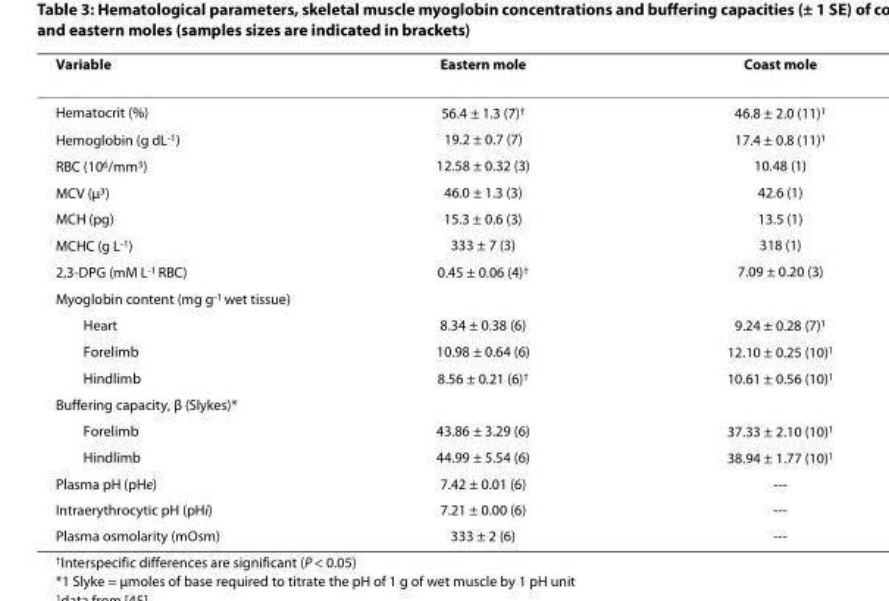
<table><thead><tr><td>Variable</td><td>Eastern mole</td><td>Coast mole</td></tr></thead><tbody><tr><td>Hematocrit (%)</td><td>56.4 ± 1.3 (7)<sup>†</sup></td><td>46.8 ± 2.0 (11)<sup>1</sup></td></tr><tr><td>Hemoglobin (g dL<sup>-1</sup>)</td><td>19.2 ± 0.7 (7)</td><td>17.4 ± 0.8 (11)<sup>1</sup></td></tr><tr><td>RBC (10<sup>6</sup>/mm<sup>3</sup>)</td><td>12.58 ± 0.32 (3)</td><td>10.48 (1)</td></tr><tr><td>MCV (μ<sup>3</sup>)</td><td>46.0 ± 1.3 (3)</td><td>42.6 (1)</td></tr><tr><td>MCH (pg)</td><td>15.3 ± 0.6 (3)</td><td>13.5 (1)</td></tr><tr><td>MCHC (g L<sup>-1</sup>)</td><td>333 ± 7 (3)</td><td>318 (1)</td></tr><tr><td>2,3-DPG (mM L<sup>-1</sup> RBC)</td><td>0.45 ± 0.06 (4)<sup>†</sup></td><td>7.09 ± 0.20 (3)</td></tr><tr><td colspan="3">Myoglobin content (mg g<sup>-1</sup> wet tissue)</td></tr><tr><td>Heart</td><td>8.34 ± 0.38 (6)</td><td>9.24 ± 0.28 (7)<sup>1</sup></td></tr><tr><td>Forelimb</td><td>10.98 ± 0.64 (6)</td><td>12.10 ± 0.25 (10)<sup>1</sup></td></tr><tr><td>Hindlimb</td><td>8.56 ± 0.21 (6)<sup>†</sup></td><td>10.61 ± 0.56 (10)<sup>1</sup></td></tr><tr><td colspan="3">Buffering capacity, β (Slykes)*</td></tr><tr><td>Forelimb</td><td>43.86 ± 3.29 (6)</td><td>37.33 ± 2.10 (10)<sup>1</sup></td></tr><tr><td>Hindlimb</td><td>44.99 ± 5.54 (6)</td><td>38.94 ± 1.77 (10)<sup>1</sup></td></tr><tr><td>Plasma pH (pHe)</td><td>7.42 ± 0.01 (6)</td><td>---</td></tr><tr><td>Intraerythrocytic pH (pHi)</td><td>7.21 ± 0.00 (6)</td><td>---</td></tr><tr><td>Plasma osmolarity (mOsm)</td><td>333 ± 2 (6)</td><td>---</td></tr></tbody></table>